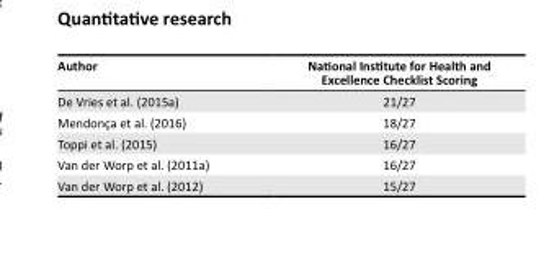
<table><thead><tr><td>Author</td><td>National Institute for Health and Excellence Checklist Scoring</td></tr></thead><tbody><tr><td>De Vries et al. (2015a)</td><td>21/27</td></tr><tr><td>Mendonça et al. (2016)</td><td>18/27</td></tr><tr><td>Toppi et al. (2015)</td><td>16/27</td></tr><tr><td>Van der Worp et al. (2011a)</td><td>16/27</td></tr><tr><td>Van der Worp et al. (2012)</td><td>15/27</td></tr></tbody></table>